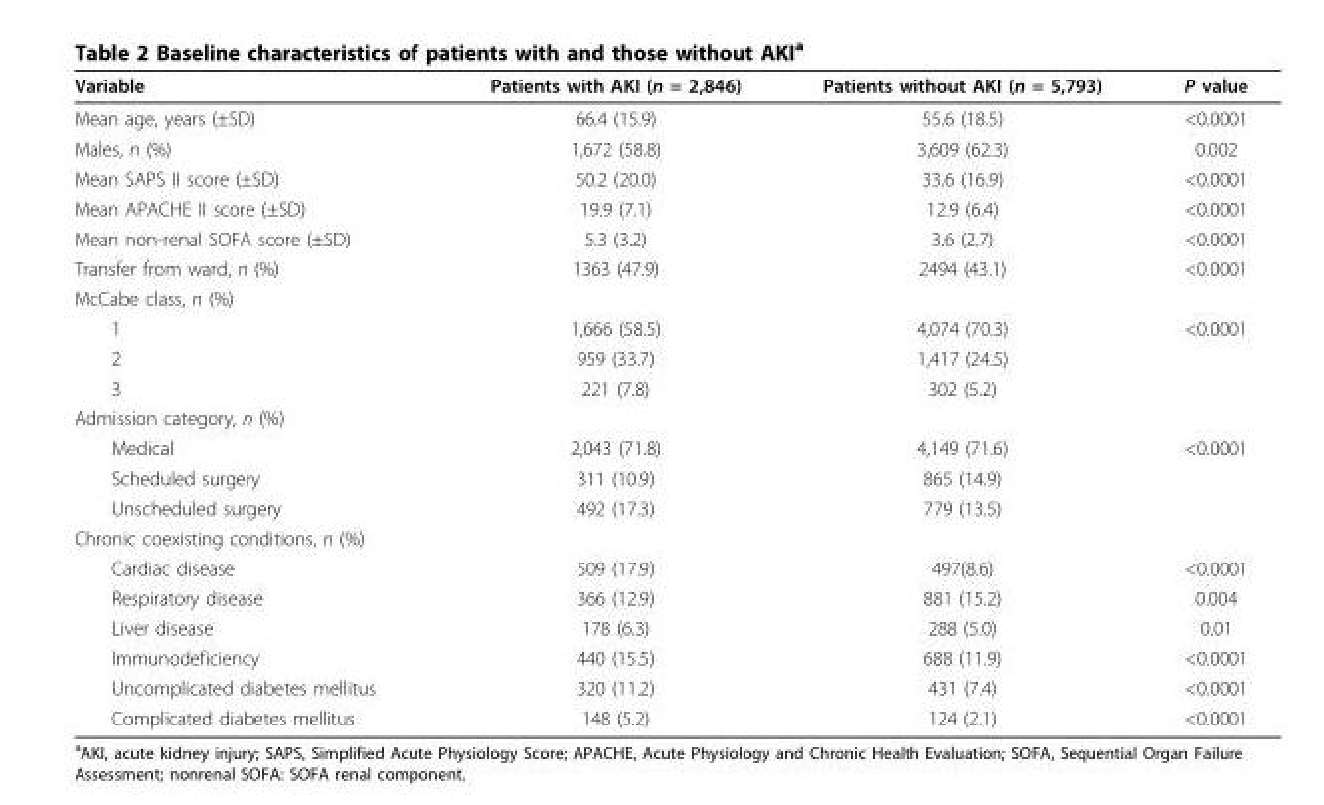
<table><thead><tr><td>Variable</td><td>Patients with AKI (n = 2,846)</td><td>Patients without AKI (n = 5,793)</td><td>P value</td></tr></thead><tbody><tr><td>Mean age, years (±SD)</td><td>66.4 (15.9)</td><td>55.6 (18.5)</td><td>&lt;0.0001</td></tr><tr><td>Males, n (%)</td><td>1,672 (58.8)</td><td>3,609 (62.3)</td><td>0.002</td></tr><tr><td>Mean SAPS II score (±SD)</td><td>50.2 (20.0)</td><td>33.6 (16.9)</td><td>&lt;0.0001</td></tr><tr><td>Mean APACHE II score (±SD)</td><td>19.9 (7.1)</td><td>12.9 (6.4)</td><td>&lt;0.0001</td></tr><tr><td>Mean non-renal SOFA score (±SD)</td><td>5.3 (3.2)</td><td>3.6 (2.7)</td><td>&lt;0.0001</td></tr><tr><td>Transfer from ward, n (%)</td><td>1363 (47.9)</td><td>2494 (43.1)</td><td>&lt;0.0001</td></tr><tr><td colspan="4">McCabe class, n (%)</td></tr><tr><td>1</td><td>1,666 (58.5)</td><td>4,074 (70.3)</td><td>&lt;0.0001</td></tr><tr><td>2</td><td>959 (33.7)</td><td>1,417 (24.5)</td><td></td></tr><tr><td>3</td><td>221 (7.8)</td><td>302 (5.2)</td><td></td></tr><tr><td colspan="4">Admission category, n (%)</td></tr><tr><td>Medical</td><td>2,043 (71.8)</td><td>4,149 (71.6)</td><td>&lt;0.0001</td></tr><tr><td>Scheduled surgery</td><td>311 (10.9)</td><td>865 (14.9)</td><td></td></tr><tr><td>Unscheduled surgery</td><td>492 (17.3)</td><td>779 (13.5)</td><td></td></tr><tr><td colspan="4">Chronic coexisting conditions, n (%)</td></tr><tr><td>Cardiac disease</td><td>509 (17.9)</td><td>497(8.6)</td><td>&lt;0.0001</td></tr><tr><td>Respiratory disease</td><td>366 (12.9)</td><td>881 (15.2)</td><td>0.004</td></tr><tr><td>Liver disease</td><td>178 (6.3)</td><td>288 (5.0)</td><td>0.01</td></tr><tr><td>Immunodeficiency</td><td>440 (15.5)</td><td>688 (11.9)</td><td>&lt;0.0001</td></tr><tr><td>Uncomplicated diabetes mellitus</td><td>320 (11.2)</td><td>431 (7.4)</td><td>&lt;0.0001</td></tr><tr><td>Complicated diabetes mellitus</td><td>148 (5.2)</td><td>124 (2.1)</td><td>&lt;0.0001</td></tr></tbody></table>